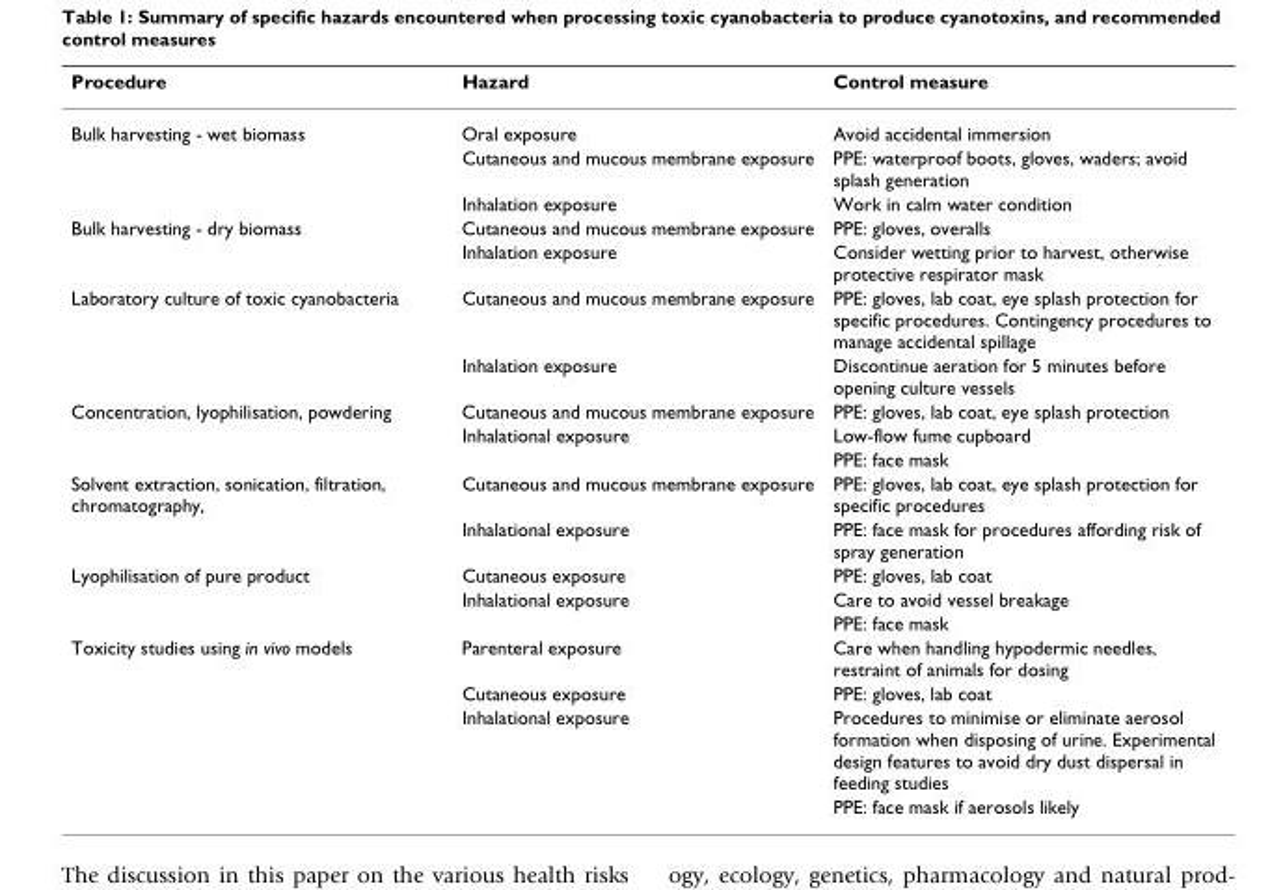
<table><thead><tr><td>Procedure</td><td>Hazard</td><td>Control measure</td></tr></thead><tbody><tr><td rowspan="3">Bulk harvesting - wet biomass</td><td>Oral exposure</td><td>Avoid accidental immersion</td></tr><tr><td>Cutaneous and mucous membrane exposure</td><td>PPE: waterproof boots, gloves, waders; avoid splash generation</td></tr><tr><td>Inhalation exposure</td><td>Work in calm water condition</td></tr><tr><td rowspan="2">Bulk harvesting - dry biomass</td><td>Cutaneous and mucous membrane exposure</td><td>PPE: gloves, overalls</td></tr><tr><td>Inhalation exposure</td><td>Consider wetting prior to harvest, otherwise protective respirator mask</td></tr><tr><td rowspan="2">Laboratory culture of toxic cyanobacteria</td><td>Cutaneous and mucous membrane exposure</td><td>PPE: gloves, lab coat, eye splash protection for specific procedures. Contingency procedures to manage accidental spillage</td></tr><tr><td>Inhalation exposure</td><td>Discontinue aeration for 5 minutes before opening culture vessels</td></tr><tr><td rowspan="3">Concentration, lyophilisation, powdering</td><td>Cutaneous and mucous membrane exposure</td><td>PPE: gloves, lab coat, eye splash protection</td></tr><tr><td>Inhalational exposure</td><td>Low-flow fume cupboard</td></tr><tr><td></td><td>PPE: face mask</td></tr><tr><td rowspan="2">Solvent extraction, sonication, filtration, chromatography,</td><td>Cutaneous and mucous membrane exposure</td><td>PPE: gloves, lab coat, eye splash protection for specific procedures</td></tr><tr><td>Inhalational exposure</td><td>PPE: face mask for procedures affording risk of spray generation</td></tr><tr><td rowspan="3">Lyophilisation of pure product</td><td>Cutaneous exposure</td><td>PPE: gloves, lab coat</td></tr><tr><td>Inhalational exposure</td><td>Care to avoid vessel breakage</td></tr><tr><td></td><td>PPE: face mask</td></tr><tr><td rowspan="4">Toxicity studies using in vivo models</td><td>Parenteral exposure</td><td>Care when handling hypodermic needles, restraint of animals for dosing</td></tr><tr><td>Cutaneous exposure</td><td>PPE: gloves, lab coat</td></tr><tr><td>Inhalational exposure</td><td>Procedures to minimise or eliminate aerosol formation when disposing of urine. Experimental design features to avoid dry dust dispersal in feeding studies</td></tr><tr><td></td><td>PPE: face mask if aerosols likely</td></tr></tbody></table>